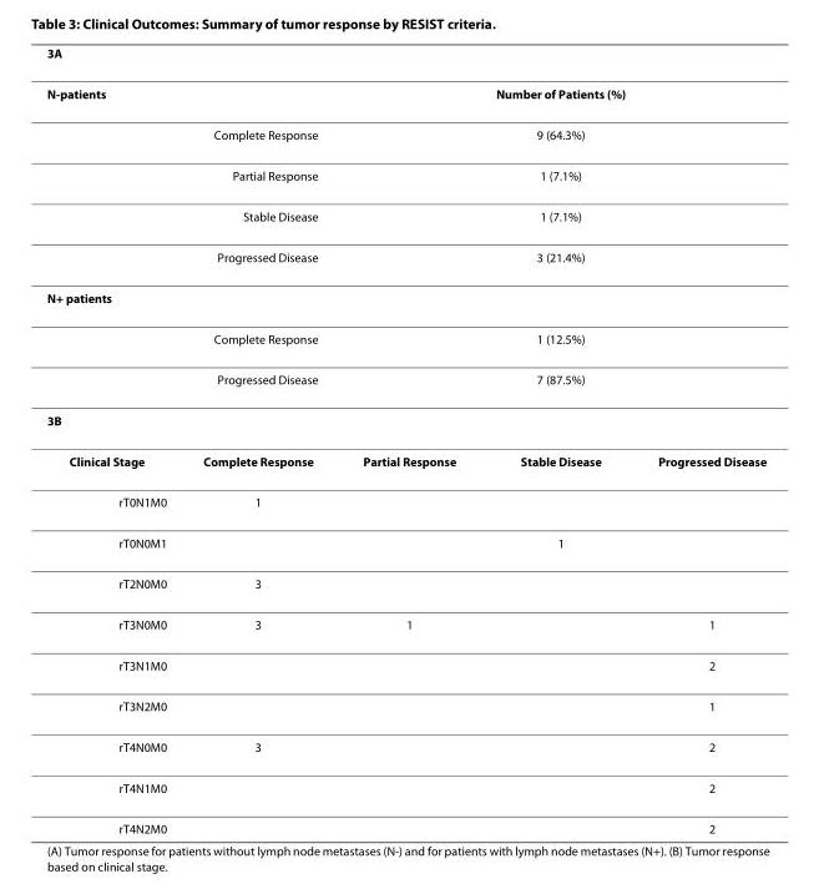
<table><thead><tr><td colspan="5">3A</td></tr></thead><tbody><tr><td colspan="2">N-patients</td><td colspan="3">Number of Patients (%)</td></tr><tr><td colspan="2">Complete Response</td><td colspan="3">9 (64.3%)</td></tr><tr><td colspan="2">Partial Response</td><td colspan="3">1 (7.1%)</td></tr><tr><td colspan="2">Stable Disease</td><td colspan="3">1 (7.1%)</td></tr><tr><td colspan="2">Progressed Disease</td><td colspan="3">3 (21.4%)</td></tr><tr><td colspan="5">N+ patients</td></tr><tr><td colspan="2">Complete Response</td><td colspan="3">1 (12.5%)</td></tr><tr><td colspan="2">Progressed Disease</td><td colspan="3">7 (87.5%)</td></tr><tr><td colspan="5">3B</td></tr><tr><td>Clinical Stage</td><td>Complete Response</td><td>Partial Response</td><td>Stable Disease</td><td>Progressed Disease</td></tr><tr><td>rT0N1M0</td><td>1</td><td></td><td></td><td></td></tr><tr><td>rT0N0M1</td><td></td><td></td><td>1</td><td></td></tr><tr><td>rT2N0M0</td><td>3</td><td></td><td></td><td></td></tr><tr><td>rT3N0M0</td><td>3</td><td>1</td><td></td><td>1</td></tr><tr><td>rT3N1M0</td><td></td><td></td><td></td><td>2</td></tr><tr><td>rT3N2M0</td><td></td><td></td><td></td><td>1</td></tr><tr><td>rT4N0M0</td><td>3</td><td></td><td></td><td>2</td></tr><tr><td>rT4N1M0</td><td></td><td></td><td></td><td>2</td></tr><tr><td>rT4N2M0</td><td></td><td></td><td></td><td>2</td></tr></tbody></table>